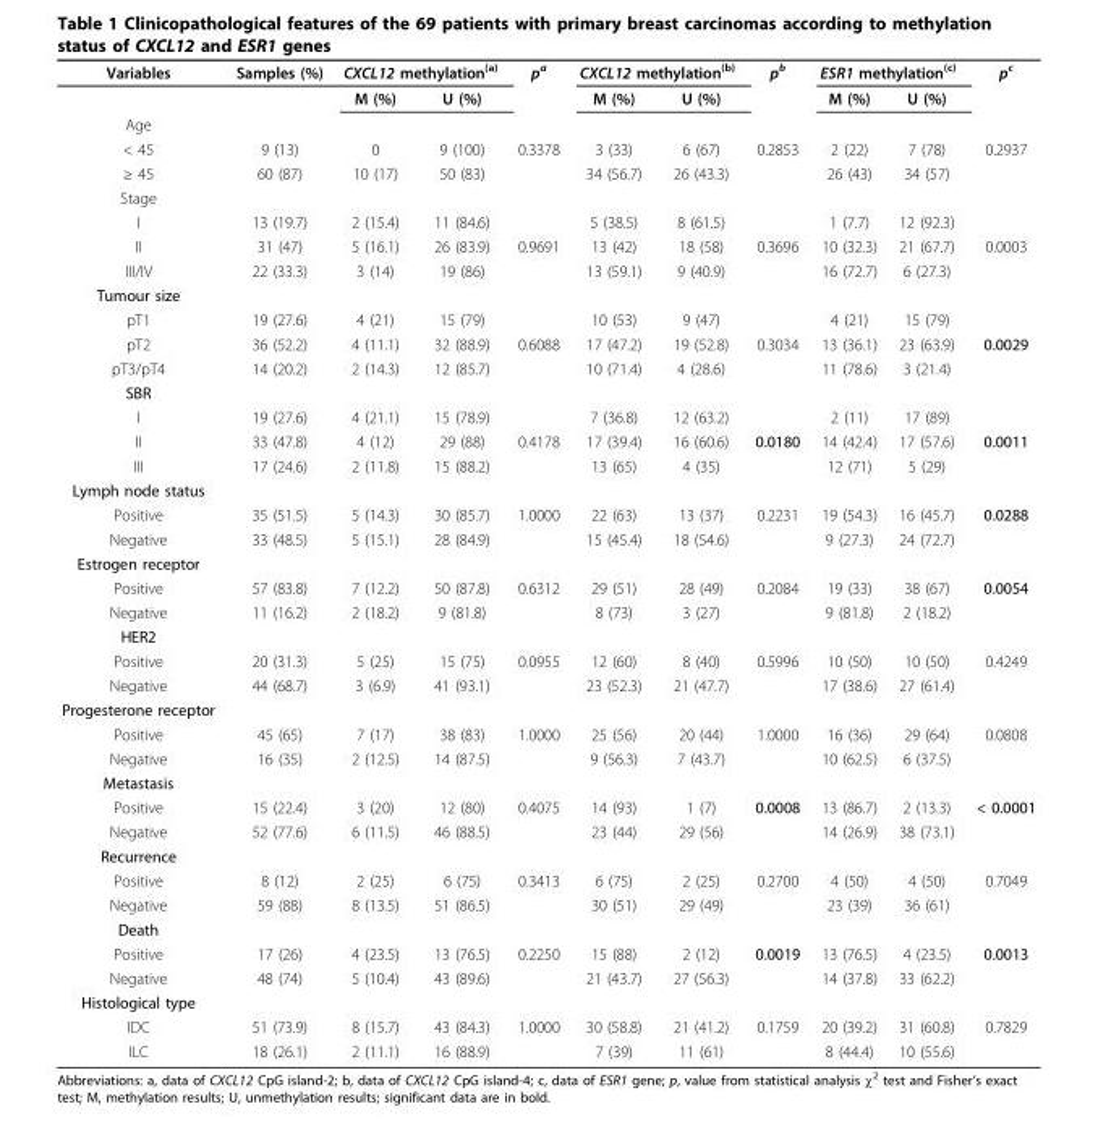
<table><tbody><tr><td rowspan="2">Variables</td><td>Samples (%)</td><td colspan="2">CXCL12 methylation<sup>(a)</sup></td><td>p<sup>a</sup></td><td colspan="2">CXCL12 methylation<sup>(b)</sup></td><td>p<sup>b</sup></td><td colspan="2">ESR1 methylation<sup>(c)</sup></td><td>p<sup>c</sup></td></tr><tr><td></td><td>M (%)</td><td>U (%)</td><td></td><td>M (%)</td><td>U (%)</td><td></td><td>M (%)</td><td>U (%)</td><td></td></tr><tr><td colspan="11">Age</td></tr><tr><td>&lt; 45</td><td>9 (13)</td><td>0</td><td>9 (100)</td><td>0.3378</td><td>3 (33)</td><td>6 (67)</td><td>0.2853</td><td>2 (22)</td><td>7 (78)</td><td>0.2937</td></tr><tr><td>≥ 45</td><td>60 (87)</td><td>10 (17)</td><td>50 (83)</td><td></td><td>34 (56.7)</td><td>26 (43.3)</td><td></td><td>26 (43)</td><td>34 (57)</td><td></td></tr><tr><td colspan="11">Stage</td></tr><tr><td>I</td><td>13 (19.7)</td><td>2 (15.4)</td><td>11 (84.6)</td><td></td><td>5 (38.5)</td><td>8 (61.5)</td><td></td><td>1 (7.7)</td><td>12 (92.3)</td><td></td></tr><tr><td>II</td><td>31 (47)</td><td>5 (16.1)</td><td>26 (83.9)</td><td>0.9691</td><td>13 (42)</td><td>18 (58)</td><td>0.3696</td><td>10 (32.3)</td><td>21 (67.7)</td><td>0.0003</td></tr><tr><td>III/IV</td><td>22 (33.3)</td><td>3 (14)</td><td>19 (86)</td><td></td><td>13 (59.1)</td><td>9 (40.9)</td><td></td><td>16 (72.7)</td><td>6 (27.3)</td><td></td></tr><tr><td colspan="11">Tumour size</td></tr><tr><td>pT1</td><td>19 (27.6)</td><td>4 (21)</td><td>15 (79)</td><td></td><td>10 (53)</td><td>9 (47)</td><td></td><td>4 (21)</td><td>15 (79)</td><td></td></tr><tr><td>pT2</td><td>36 (52.2)</td><td>4 (11.1)</td><td>32 (88.9)</td><td>0.6088</td><td>17 (47.2)</td><td>19 (52.8)</td><td>0.3034</td><td>13 (36.1)</td><td>23 (63.9)</td><td>0.0029</td></tr><tr><td>pT3/pT4</td><td>14 (20.2)</td><td>2 (14.3)</td><td>12 (85.7)</td><td></td><td>10 (71.4)</td><td>4 (28.6)</td><td></td><td>11 (78.6)</td><td>3 (21.4)</td><td></td></tr><tr><td colspan="11">SBR</td></tr><tr><td>I</td><td>19 (27.6)</td><td>4 (21.1)</td><td>15 (78.9)</td><td></td><td>7 (36.8)</td><td>12 (63.2)</td><td></td><td>2 (11)</td><td>17 (89)</td><td></td></tr><tr><td>II</td><td>33 (47.8)</td><td>4 (12)</td><td>29 (88)</td><td>0.4178</td><td>17 (39.4)</td><td>16 (60.6)</td><td>0.0180</td><td>14 (42.4)</td><td>17 (57.6)</td><td>0.0011</td></tr><tr><td>III</td><td>17 (24.6)</td><td>2 (11.8)</td><td>15 (88.2)</td><td></td><td>13 (65)</td><td>4 (35)</td><td></td><td>12 (71)</td><td>5 (29)</td><td></td></tr><tr><td colspan="11">Lymph node status</td></tr><tr><td>Positive</td><td>35 (51.5)</td><td>5 (14.3)</td><td>30 (85.7)</td><td>1.0000</td><td>22 (63)</td><td>13 (37)</td><td>0.2231</td><td>19 (54.3)</td><td>16 (45.7)</td><td>0.0288</td></tr><tr><td>Negative</td><td>33 (48.5)</td><td>5 (15.1)</td><td>28 (84.9)</td><td></td><td>15 (45.4)</td><td>18 (54.6)</td><td></td><td>9 (27.3)</td><td>24 (72.7)</td><td></td></tr><tr><td colspan="11">Estrogen receptor</td></tr><tr><td>Positive</td><td>57 (83.8)</td><td>7 (12.2)</td><td>50 (87.8)</td><td>0.6312</td><td>29 (51)</td><td>28 (49)</td><td>0.2084</td><td>19 (33)</td><td>38 (67)</td><td>0.0054</td></tr><tr><td>Negative</td><td>11 (16.2)</td><td>2 (18.2)</td><td>9 (81.8)</td><td></td><td>8 (73)</td><td>3 (27)</td><td></td><td>9 (81.8)</td><td>2 (18.2)</td><td></td></tr><tr><td colspan="11">HER2</td></tr><tr><td>Positive</td><td>20 (31.3)</td><td>5 (25)</td><td>15 (75)</td><td>0.0955</td><td>12 (60)</td><td>8 (40)</td><td>0.5996</td><td>10 (50)</td><td>10 (50)</td><td>0.4249</td></tr><tr><td>Negative</td><td>44 (68.7)</td><td>3 (6.9)</td><td>41 (93.1)</td><td></td><td>23 (52.3)</td><td>21 (47.7)</td><td></td><td>17 (38.6)</td><td>27 (61.4)</td><td></td></tr><tr><td colspan="11">Progesterone receptor</td></tr><tr><td>Positive</td><td>45 (65)</td><td>7 (17)</td><td>38 (83)</td><td>1.0000</td><td>25 (56)</td><td>20 (44)</td><td>1.0000</td><td>16 (36)</td><td>29 (64)</td><td>0.0808</td></tr><tr><td>Negative</td><td>16 (35)</td><td>2 (12.5)</td><td>14 (87.5)</td><td></td><td>9 (56.3)</td><td>7 (43.7)</td><td></td><td>10 (62.5)</td><td>6 (37.5)</td><td></td></tr><tr><td colspan="11">Metastasis</td></tr><tr><td>Positive</td><td>15 (22.4)</td><td>3 (20)</td><td>12 (80)</td><td>0.4075</td><td>14 (93)</td><td>1 (7)</td><td>0.0008</td><td>13 (86.7)</td><td>2 (13.3)</td><td>&lt; 0.0001</td></tr><tr><td>Negative</td><td>52 (77.6)</td><td>6 (11.5)</td><td>46 (88.5)</td><td></td><td>23 (44)</td><td>29 (56)</td><td></td><td>14 (26.9)</td><td>38 (73.1)</td><td></td></tr><tr><td colspan="11">Recurrence</td></tr><tr><td>Positive</td><td>8 (12)</td><td>2 (25)</td><td>6 (75)</td><td>0.3413</td><td>6 (75)</td><td>2 (25)</td><td>0.2700</td><td>4 (50)</td><td>4 (50)</td><td>0.7049</td></tr><tr><td>Negative</td><td>59 (88)</td><td>8 (13.5)</td><td>51 (86.5)</td><td></td><td>30 (51)</td><td>29 (49)</td><td></td><td>23 (39)</td><td>36 (61)</td><td></td></tr><tr><td colspan="11">Death</td></tr><tr><td>Positive</td><td>17 (26)</td><td>4 (23.5)</td><td>13 (76.5)</td><td>0.2250</td><td>15 (88)</td><td>2 (12)</td><td>0.0019</td><td>13 (76.5)</td><td>4 (23.5)</td><td>0.0013</td></tr><tr><td>Negative</td><td>48 (74)</td><td>5 (10.4)</td><td>43 (89.6)</td><td></td><td>21 (43.7)</td><td>27 (56.3)</td><td></td><td>14 (37.8)</td><td>33 (62.2)</td><td></td></tr><tr><td colspan="11">Histological type</td></tr><tr><td>IDC</td><td>51 (73.9)</td><td>8 (15.7)</td><td>43 (84.3)</td><td>1.0000</td><td>30 (58.8)</td><td>21 (41.2)</td><td>0.1759</td><td>20 (39.2)</td><td>31 (60.8)</td><td>0.7829</td></tr><tr><td>ILC</td><td>18 (26.1)</td><td>2 (11.1)</td><td>16 (88.9)</td><td></td><td>7 (39)</td><td>11 (61)</td><td></td><td>8 (44.4)</td><td>10 (55.6)</td><td></td></tr></tbody></table>